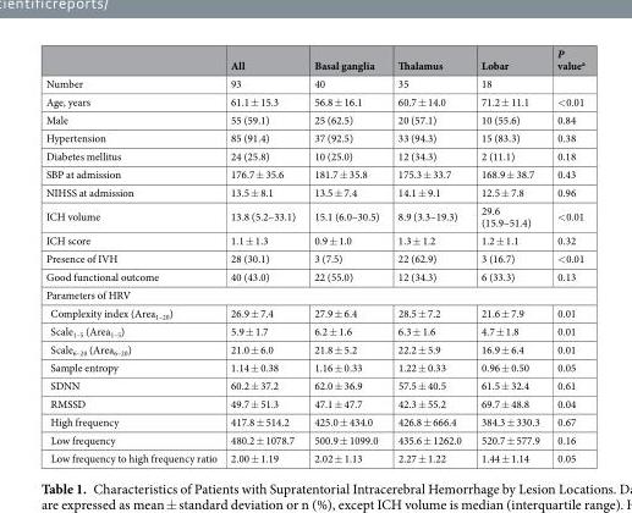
<table><thead><tr><td></td><td>All</td><td>Basal ganglia</td><td>Thalamus</td><td>Lobar</td><td>P value<sup>a</sup></td></tr></thead><tbody><tr><td>Number</td><td>93</td><td>40</td><td>35</td><td>18</td><td></td></tr><tr><td>Age, years</td><td>61.1 ± 15.3</td><td>56.8 ± 16.1</td><td>60.7 ± 14.0</td><td>71.2 ± 11.1</td><td>&lt;0.01</td></tr><tr><td>Male</td><td>55 (59.1)</td><td>25 (62.5)</td><td>20 (57.1)</td><td>10 (55.6)</td><td>0.84</td></tr><tr><td>Hypertension</td><td>85 (91.4)</td><td>37 (92.5)</td><td>33 (94.3)</td><td>15 (83.3)</td><td>0.38</td></tr><tr><td>Diabetes mellitus</td><td>24 (25.8)</td><td>10 (25.0)</td><td>12 (34.3)</td><td>2 (11.1)</td><td>0.18</td></tr><tr><td>SBP at admission</td><td>176.7 ± 35.6</td><td>181.7 ± 35.8</td><td>175.3 ± 33.7</td><td>168.9 ± 38.7</td><td>0.43</td></tr><tr><td>NIHSS at admission</td><td>13.5 ± 8.1</td><td>13.5 ± 7.4</td><td>14.1 ± 9.1</td><td>12.5 ± 7.8</td><td>0.96</td></tr><tr><td>ICH volume</td><td>13.8 (5.2–33.1)</td><td>15.1 (6.0–30.5)</td><td>8.9 (3.3–19.3)</td><td>29.6 (15.9–51.4)</td><td>&lt;0.01</td></tr><tr><td>ICH score</td><td>1.1 ± 1.3</td><td>0.9 ± 1.0</td><td>1.3 ± 1.2</td><td>1.2 ± 1.1</td><td>0.32</td></tr><tr><td>Presence of IVH</td><td>28 (30.1)</td><td>3 (7.5)</td><td>22 (62.9)</td><td>3 (16.7)</td><td>&lt;0.01</td></tr><tr><td>Good functional outcome</td><td>40 (43.0)</td><td>22 (55.0)</td><td>12 (34.3)</td><td>6 (33.3)</td><td>0.13</td></tr><tr><td colspan="6">Parameters of HRV</td></tr><tr><td>Complexity index (Area<sub>1–20</sub>)</td><td>26.9 ± 7.4</td><td>27.9 ± 6.4</td><td>28.5 ± 7.2</td><td>21.6 ± 7.9</td><td>0.01</td></tr><tr><td>Scale<sub>1–5</sub> (Area<sub>1–5</sub>)</td><td>5.9 ± 1.7</td><td>6.2 ± 1.6</td><td>6.3 ± 1.6</td><td>4.7 ± 1.8</td><td>0.01</td></tr><tr><td>Scale<sub>6–20</sub> (Area<sub>6–20</sub>)</td><td>21.0 ± 6.0</td><td>21.8 ± 5.2</td><td>22.2 ± 5.9</td><td>16.9 ± 6.4</td><td>0.01</td></tr><tr><td>Sample entropy</td><td>1.14 ± 0.38</td><td>1.16 ± 0.33</td><td>1.22 ± 0.33</td><td>0.96 ± 0.50</td><td>0.05</td></tr><tr><td>SDNN</td><td>60.2 ± 37.2</td><td>62.0 ± 36.9</td><td>57.5 ± 40.5</td><td>61.5 ± 32.4</td><td>0.61</td></tr><tr><td>RMSSD</td><td>49.7 ± 51.3</td><td>47.1 ± 47.7</td><td>42.3 ± 55.2</td><td>69.7 ± 48.8</td><td>0.04</td></tr><tr><td>High frequency</td><td>417.8 ± 514.2</td><td>425.0 ± 434.0</td><td>426.8 ± 666.4</td><td>384.3 ± 330.3</td><td>0.67</td></tr><tr><td>Low frequency</td><td>480.2 ± 1078.7</td><td>500.9 ± 1099.0</td><td>435.6 ± 1262.0</td><td>520.7 ± 577.9</td><td>0.16</td></tr><tr><td>Low frequency to high frequency ratio</td><td>2.00 ± 1.19</td><td>2.02 ± 1.13</td><td>2.27 ± 1.22</td><td>1.44 ± 1.14</td><td>0.05</td></tr></tbody></table>